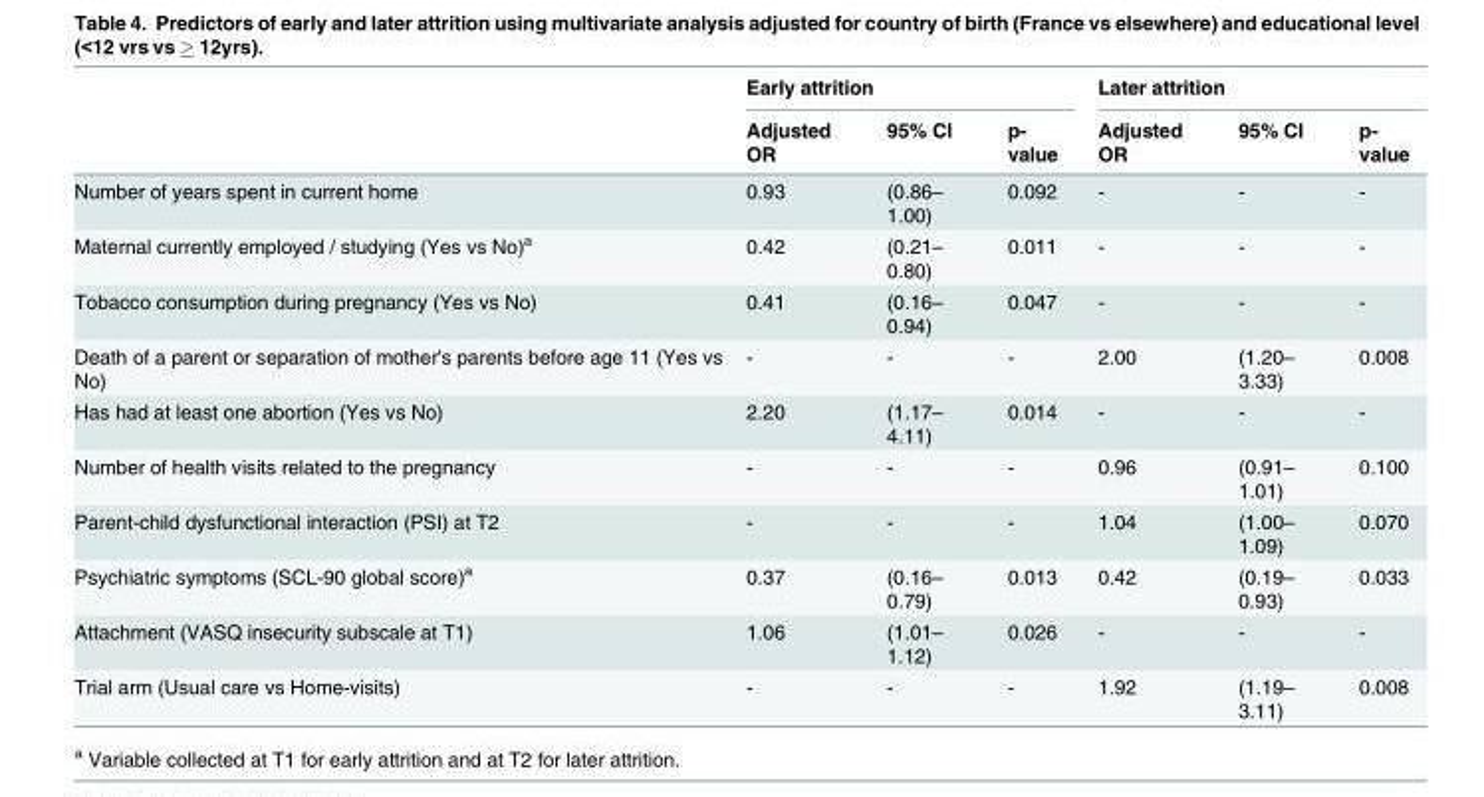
<table><thead><tr><td rowspan="2"></td><td colspan="3">Early attrition</td><td colspan="3">Later attrition</td></tr><tr><td>Adjusted OR</td><td>95% CI</td><td>p- value</td><td>Adjusted OR</td><td>95% CI</td><td>p- value</td></tr></thead><tbody><tr><td>Number of years spent in current home</td><td>0.93</td><td>(0.86– 1.00)</td><td>0.092</td><td>-</td><td>-</td><td>-</td></tr><tr><td>Maternal currently employed / studying (Yes vs No)<sup>a</sup></td><td>0.42</td><td>(0.21– 0.80)</td><td>0.011</td><td>-</td><td>-</td><td>-</td></tr><tr><td>Tobacco consumption during pregnancy (Yes vs No)</td><td>0.41</td><td>(0.16– 0.94)</td><td>0.047</td><td>-</td><td>-</td><td>-</td></tr><tr><td>Death of a parent or separation of mother&#x27;s parents before age 11 (Yes vs No)</td><td>-</td><td>-</td><td>-</td><td>2.00</td><td>(1.20– 3.33)</td><td>0.008</td></tr><tr><td>Has had at least one abortion (Yes vs No)</td><td>2.20</td><td>(1.17– 4.11)</td><td>0.014</td><td>-</td><td>-</td><td>-</td></tr><tr><td>Number of health visits related to the pregnancy</td><td>-</td><td>-</td><td>-</td><td>0.96</td><td>(0.91– 1.01)</td><td>0.100</td></tr><tr><td>Parent-child dysfunctional interaction (PSI) at T2</td><td>-</td><td>-</td><td>-</td><td>1.04</td><td>(1.00– 1.09)</td><td>0.070</td></tr><tr><td>Psychiatric symptoms (SCL-90 global score)<sup>a</sup></td><td>0.37</td><td>(0.16– 0.79)</td><td>0.013</td><td>0.42</td><td>(0.19– 0.93)</td><td>0.033</td></tr><tr><td>Attachment (VASQ insecurity subscale at T1)</td><td>1.06</td><td>(1.01– 1.12)</td><td>0.026</td><td>-</td><td>-</td><td>-</td></tr><tr><td>Trial arm (Usual care vs Home-visits)</td><td>-</td><td>-</td><td>-</td><td>1.92</td><td>(1.19– 3.11)</td><td>0.008</td></tr></tbody></table>